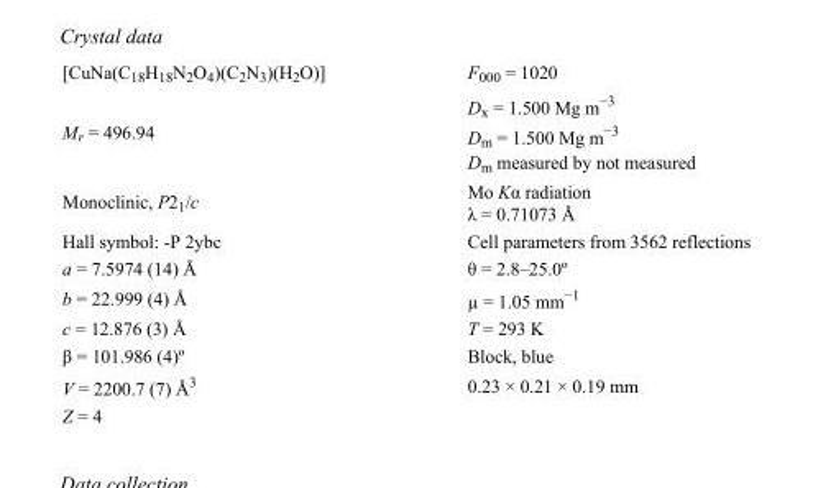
<table><tbody><tr><td>[CuNa(C<sub>18</sub>H<sub>18</sub>N<sub>2</sub>O<sub>4</sub>)(C<sub>2</sub>N<sub>3</sub>)(H<sub>2</sub>O)]</td><td>F000 = 1020</td></tr><tr><td>M<sub>r</sub> = 496.94</td><td>D<sub>x</sub> = 1.500 Mg m<sup>−3</sup> D<sub>m</sub> = 1.500 Mg m<sup>−3</sup> D<sub>m</sub> measured by not measured</td></tr><tr><td>Monoclinic, P2<sub>1</sub>/c</td><td>Mo Kα radiation λ = 0.71073 Å</td></tr><tr><td>Hall symbol: -P 2ybc</td><td>Cell parameters from 3562 reflections</td></tr><tr><td>a = 7.5974 (14) Å</td><td>θ = 2.8–25.0º</td></tr><tr><td>b = 22.999 (4) Å</td><td>µ = 1.05 mm<sup>−1</sup></td></tr><tr><td>c = 12.876 (3) Å</td><td>T = 293 K</td></tr><tr><td>β = 101.986 (4)º</td><td>Block, blue</td></tr><tr><td>V = 2200.7 (7) Å<sup>3</sup></td><td>0.23 × 0.21 × 0.19 mm</td></tr><tr><td>Z = 4</td><td></td></tr></tbody></table>